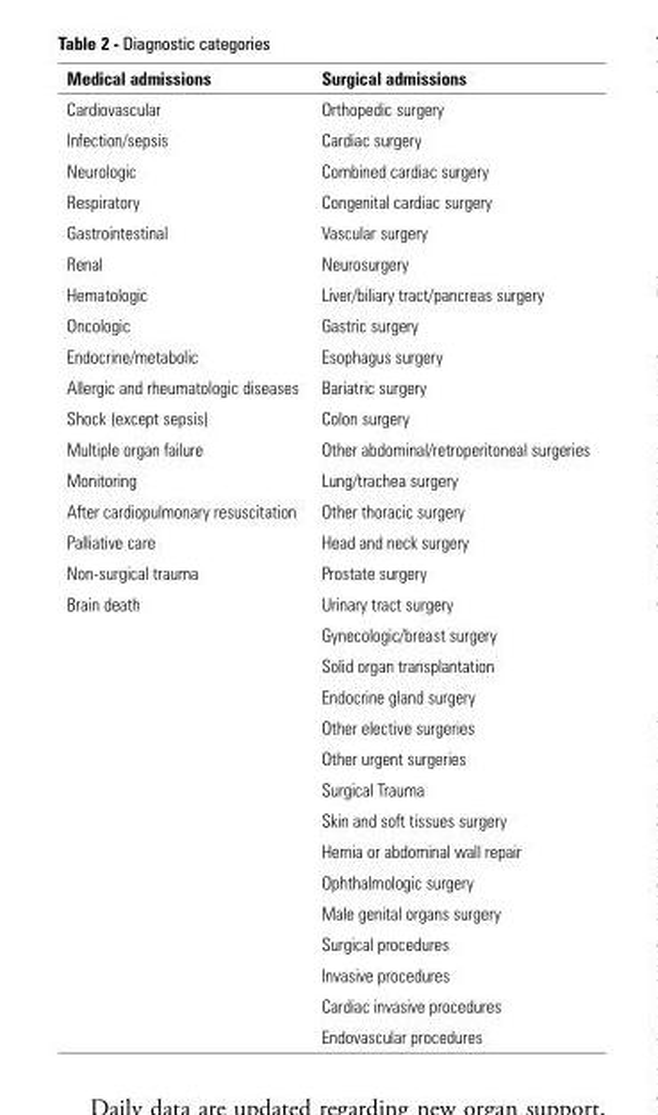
<table><thead><tr><td>Medical admissions</td><td>Surgical admissions</td></tr></thead><tbody><tr><td>Cardiovascular</td><td>Orthopedic surgery</td></tr><tr><td>Infection/sepsis</td><td>Cardiac surgery</td></tr><tr><td>Neurologic</td><td>Combined cardiac surgery</td></tr><tr><td>Respiratory</td><td>Congenital cardiac surgery</td></tr><tr><td>Gastrointestinal</td><td>Vascular surgery</td></tr><tr><td>Renal</td><td>Neurosurgery</td></tr><tr><td>Hematologic</td><td>Liver/biliary tract/pancreas surgery</td></tr><tr><td>Oncologic</td><td>Gastric surgery</td></tr><tr><td>Endocrine/metabolic</td><td>Esophagus surgery</td></tr><tr><td>Allergic and rheumatologic diseases</td><td>Bariatric surgery</td></tr><tr><td>Shock (except sepsis)</td><td>Colon surgery</td></tr><tr><td>Multiple organ failure</td><td>Other abdominal/retroperitoneal surgeries</td></tr><tr><td>Monitoring</td><td>Lung/trachea surgery</td></tr><tr><td>After cardiopulmonary resuscitation</td><td>Other thoracic surgery</td></tr><tr><td>Palliative care</td><td>Head and neck surgery</td></tr><tr><td>Non-surgical trauma</td><td>Prostate surgery</td></tr><tr><td rowspan="15">Brain death</td><td>Urinary tract surgery</td></tr><tr><td>Gynecologic/breast surgery</td></tr><tr><td>Solid organ transplantation</td></tr><tr><td>Endocrine gland surgery</td></tr><tr><td>Other elective surgeries</td></tr><tr><td>Other urgent surgeries</td></tr><tr><td>Surgical Trauma</td></tr><tr><td>Skin and soft tissues surgery</td></tr><tr><td>Hernia or abdominal wall repair</td></tr><tr><td>Ophthalmologic surgery</td></tr><tr><td>Male genital organs surgery</td></tr><tr><td>Surgical procedures</td></tr><tr><td>Invasive procedures</td></tr><tr><td>Cardiac invasive procedures</td></tr><tr><td>Endovascular procedures</td></tr></tbody></table>